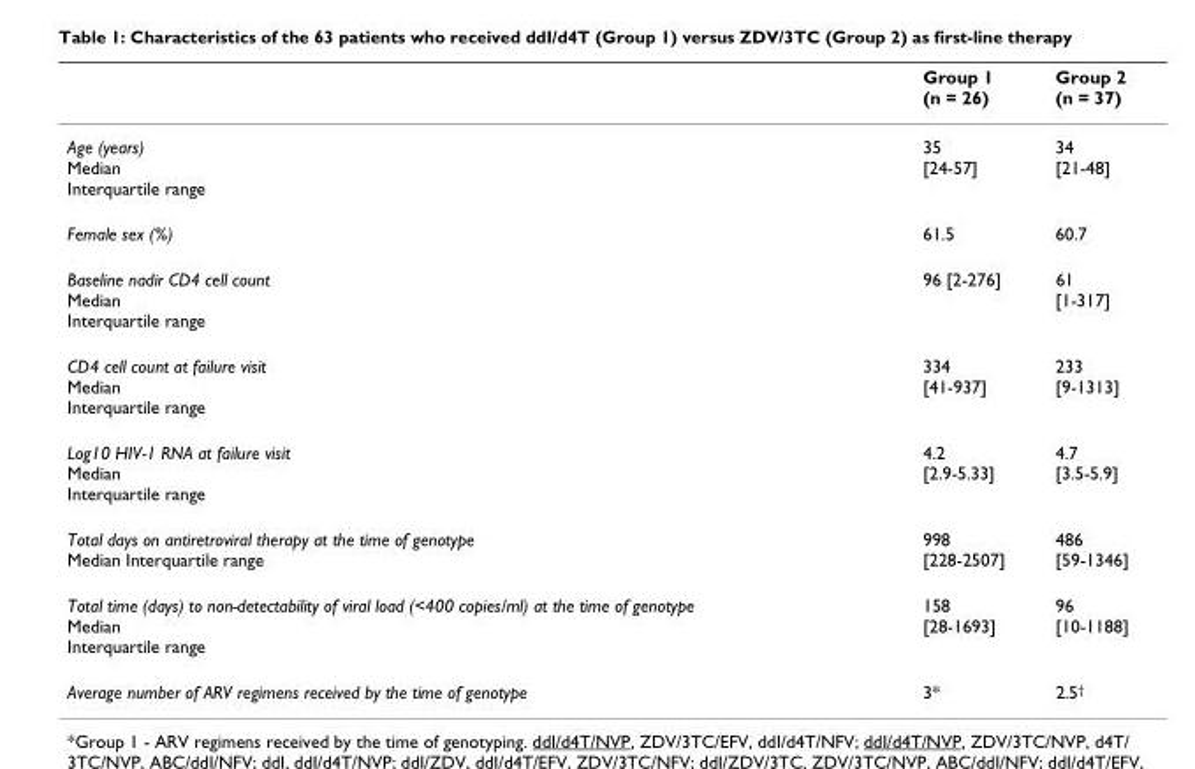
<table><thead><tr><td></td><td>Group 1 (n = 26)</td><td>Group 2 (n = 37)</td></tr></thead><tbody><tr><td>Age (years) Median Interquartile range</td><td>35 [24-57]</td><td>34 [21-48]</td></tr><tr><td>Female sex (%)</td><td>61.5</td><td>60.7</td></tr><tr><td>Baseline nadir CD4 cell count Median Interquartile range</td><td>96 [2-276]</td><td>61 [1-317]</td></tr><tr><td>CD4 cell count at failure visit Median Interquartile range</td><td>334 [41-937]</td><td>233 [9-1313]</td></tr><tr><td>Log10 HIV-1 RNA at failure visit Median Interquartile range</td><td>4.2 [2.9-5.33]</td><td>4.7 [3.5-5.9]</td></tr><tr><td>Total days on antiretroviral therapy at the time of genotype Median Interquartile range</td><td>998 [228-2507]</td><td>486 [59-1346]</td></tr><tr><td>Total time (days) to non-detectability of viral load (&lt;400 copies/ml) at the time of genotype Median Interquartile range</td><td>158 [28-1693]</td><td>96 [10-1188]</td></tr><tr><td>Average number of ARV regimens received by the time of genotype</td><td>3*</td><td>2.5<sup>†</sup></td></tr></tbody></table>